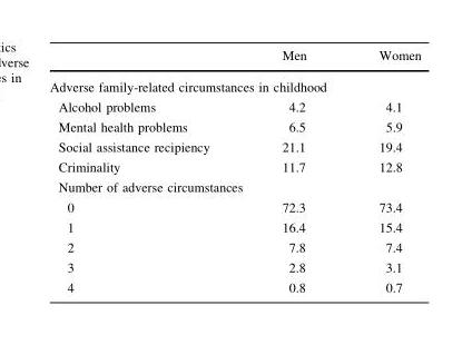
<table><thead><tr><td></td><td>Men</td><td>Women</td></tr></thead><tbody><tr><td colspan="3">Adverse family-related circumstances in childhood</td></tr><tr><td>Alcohol problems</td><td>4.2</td><td>4.1</td></tr><tr><td>Mental health problems</td><td>6.5</td><td>5.9</td></tr><tr><td>Social assistance recipiency</td><td>21.1</td><td>19.4</td></tr><tr><td>Criminality</td><td>11.7</td><td>12.8</td></tr><tr><td colspan="3">Number of adverse circumstances</td></tr><tr><td>0</td><td>72.3</td><td>73.4</td></tr><tr><td>1</td><td>16.4</td><td>15.4</td></tr><tr><td>2</td><td>7.8</td><td>7.4</td></tr><tr><td>3</td><td>2.8</td><td>3.1</td></tr><tr><td>4</td><td>0.8</td><td>0.7</td></tr></tbody></table>